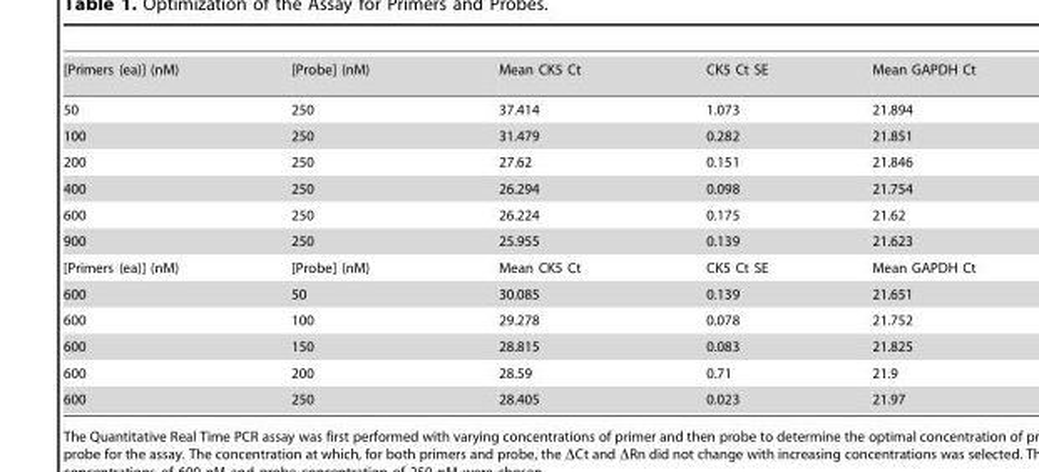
<table><tbody><tr><td>[Primers (ea)] (nM)</td><td>[Probe] (nM)</td><td>Mean CK5 Ct</td><td>CK5 Ct SE</td><td>Mean GAPDH Ct</td></tr><tr><td>50</td><td>250</td><td>37.414</td><td>1.073</td><td>21.894</td></tr><tr><td>100</td><td>250</td><td>31.479</td><td>0.282</td><td>21.851</td></tr><tr><td>200</td><td>250</td><td>27.62</td><td>0.151</td><td>21.846</td></tr><tr><td>400</td><td>250</td><td>26.294</td><td>0.098</td><td>21.754</td></tr><tr><td>600</td><td>250</td><td>26.224</td><td>0.175</td><td>21.62</td></tr><tr><td>900</td><td>250</td><td>25.955</td><td>0.139</td><td>21.623</td></tr><tr><td>[Primers (ea)] (nM)</td><td>[Probe] (nM)</td><td>Mean CK5 Ct</td><td>CK5 Ct SE</td><td>Mean GAPDH Ct</td></tr><tr><td>600</td><td>50</td><td>30.085</td><td>0.139</td><td>21.651</td></tr><tr><td>600</td><td>100</td><td>29.278</td><td>0.078</td><td>21.752</td></tr><tr><td>600</td><td>150</td><td>28.815</td><td>0.083</td><td>21.825</td></tr><tr><td>600</td><td>200</td><td>28.59</td><td>0.71</td><td>21.9</td></tr><tr><td>600</td><td>250</td><td>28.405</td><td>0.023</td><td>21.97</td></tr></tbody></table>